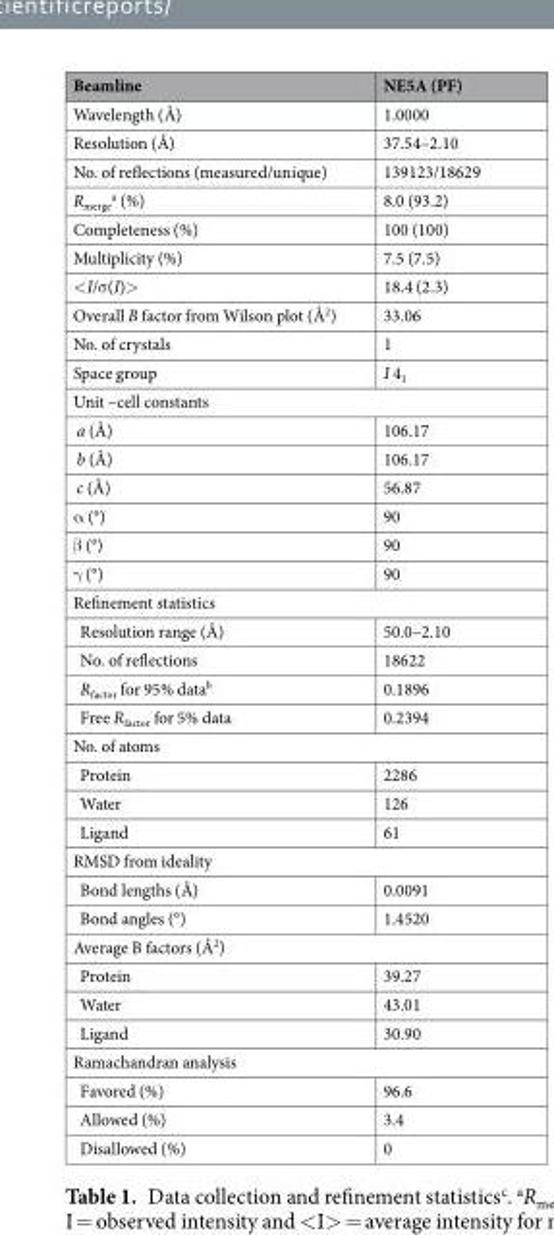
<table><thead><tr><td>Beamline</td><td>NE5A (PF)</td></tr></thead><tbody><tr><td>Wavelength (Å)</td><td>1.0000</td></tr><tr><td>Resolution (Å)</td><td>37.54–2.10</td></tr><tr><td>No. of reflections (measured/unique)</td><td>139123/18629</td></tr><tr><td>R<sub>merge</sub> <sup>a</sup> (%)</td><td>8.0 (93.2)</td></tr><tr><td>Completeness (%)</td><td>100 (100)</td></tr><tr><td>Multiplicity (%)</td><td>7.5 (7.5)</td></tr><tr><td>&lt;I/σ(I)&gt;</td><td>18.4 (2.3)</td></tr><tr><td>Overall B factor from Wilson plot (Å<sup>2</sup>)</td><td>33.06</td></tr><tr><td>No. of crystals</td><td>1</td></tr><tr><td>Space group</td><td>I 4<sub>1</sub></td></tr><tr><td colspan="2">Unit –cell constants</td></tr><tr><td>a (Å)</td><td>106.17</td></tr><tr><td>b (Å)</td><td>106.17</td></tr><tr><td>c (Å)</td><td>56.87</td></tr><tr><td>α (°)</td><td>90</td></tr><tr><td>β (°)</td><td>90</td></tr><tr><td>γ (°)</td><td>90</td></tr><tr><td colspan="2">Refinement statistics</td></tr><tr><td>Resolution range (Å)</td><td>50.0–2.10</td></tr><tr><td>No. of reflections</td><td>18622</td></tr><tr><td>R<sub>factor</sub> for 95% data<sup>b</sup></td><td>0.1896</td></tr><tr><td>Free R<sub>factor</sub> for 5% data</td><td>0.2394</td></tr><tr><td colspan="2">No. of atoms</td></tr><tr><td>Protein</td><td>2286</td></tr><tr><td>Water</td><td>126</td></tr><tr><td>Ligand</td><td>61</td></tr><tr><td colspan="2">RMSD from ideality</td></tr><tr><td>Bond lengths (Å)</td><td>0.0091</td></tr><tr><td>Bond angles (°)</td><td>1.4520</td></tr><tr><td colspan="2">Average B factors (Å<sup>2</sup>)</td></tr><tr><td>Protein</td><td>39.27</td></tr><tr><td>Water</td><td>43.01</td></tr><tr><td>Ligand</td><td>30.90</td></tr><tr><td colspan="2">Ramachandran analysis</td></tr><tr><td>Favored (%)</td><td>96.6</td></tr><tr><td>Allowed (%)</td><td>3.4</td></tr><tr><td>Disallowed (%)</td><td>0</td></tr></tbody></table>